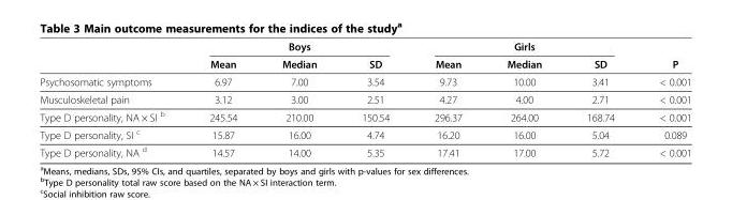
<table><thead><tr><td rowspan="2"></td><td colspan="3">Boys</td><td colspan="3">Girls</td><td rowspan="2">P</td></tr><tr><td>Mean</td><td>Median</td><td>SD</td><td>Mean</td><td>Median</td><td>SD</td></tr></thead><tbody><tr><td>Psychosomatic symptoms</td><td>6.97</td><td>7.00</td><td>3.54</td><td>9.73</td><td>10.00</td><td>3.41</td><td>&lt; 0.001</td></tr><tr><td>Musculoskeletal pain</td><td>3.12</td><td>3.00</td><td>2.51</td><td>4.27</td><td>4.00</td><td>2.71</td><td>&lt; 0.001</td></tr><tr><td>Type D personality, NA × SI <sup>b</sup></td><td>245.54</td><td>210.00</td><td>150.54</td><td>296.37</td><td>264.00</td><td>168.74</td><td>&lt; 0.001</td></tr><tr><td>Type D personality, SI <sup>c</sup></td><td>15.87</td><td>16.00</td><td>4.74</td><td>16.20</td><td>16.00</td><td>5.04</td><td>0.089</td></tr><tr><td>Type D personality, NA <sup>d</sup></td><td>14.57</td><td>14.00</td><td>5.35</td><td>17.41</td><td>17.00</td><td>5.72</td><td>&lt; 0.001</td></tr></tbody></table>